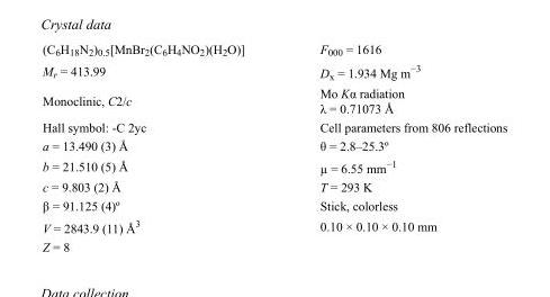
<table><tbody><tr><td>(C<sub>6</sub>H<sub>18</sub>N<sub>2</sub>)<sub>0.5</sub>[MnBr<sub>2</sub>(C<sub>6</sub>H<sub>4</sub>NO<sub>2</sub>)(H<sub>2</sub>O)]</td><td>F000 = 1616</td></tr><tr><td>M<sub>r</sub> = 413.99</td><td>D<sub>x</sub> = 1.934 Mg m<sup>−3</sup></td></tr><tr><td>Monoclinic, C2/c</td><td>Mo Kα radiation λ = 0.71073 Å</td></tr><tr><td>Hall symbol: -C 2yc</td><td>Cell parameters from 806 reflections</td></tr><tr><td>a = 13.490 (3) Å</td><td>θ = 2.8–25.3º</td></tr><tr><td>b = 21.510 (5) Å</td><td>µ = 6.55 mm<sup>−1</sup></td></tr><tr><td>c = 9.803 (2) Å</td><td>T = 293 K</td></tr><tr><td>β = 91.125 (4)º</td><td>Stick, colorless</td></tr><tr><td>V = 2843.9 (11) Å<sup>3</sup></td><td>0.10 × 0.10 × 0.10 mm</td></tr><tr><td>Z = 8</td><td></td></tr></tbody></table>